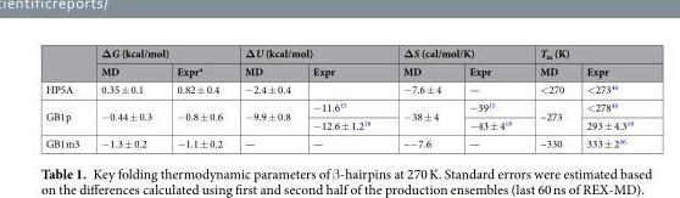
<table><thead><tr><td rowspan="2"></td><td colspan="2">ΔG (kcal/mol)</td><td colspan="2">ΔU (kcal/mol)</td><td colspan="2">ΔS (cal/mol/K)</td><td colspan="2">T<sub>m</sub> (K)</td></tr><tr><td>MD</td><td>Expr<sup>a</sup></td><td>MD</td><td>Expr</td><td>MD</td><td>Expr</td><td>MD</td><td>Expr</td></tr></thead><tbody><tr><td>HP5A</td><td>0.35 ± 0.1</td><td>0.82 ± 0.4</td><td>−2.4 ± 0.4</td><td></td><td>−7.6 ± 4</td><td>—</td><td>&lt;270</td><td>&lt;273<sup>46</sup></td></tr><tr><td rowspan="2">GB1p</td><td rowspan="2">−0.44 ± 0.3</td><td rowspan="2">−0.8 ± 0.6</td><td rowspan="2">−9.9 ± 0.8</td><td>−11.6<sup>15</sup></td><td rowspan="2">−38 ± 4</td><td>−39<sup>15</sup></td><td rowspan="2">~273</td><td>&lt;278<sup>46</sup></td></tr><tr><td>−12.6 ± 1.2<sup>18</sup></td><td>−43 ± 4<sup>18</sup></td><td>293 ± 4.3<sup>18</sup></td></tr><tr><td>GB1m3</td><td>−1.3 ± 0.2</td><td>−1.1 ± 0.2</td><td>—</td><td>—</td><td>~−7.6</td><td>—</td><td>~330</td><td>333 ± 2<sup>46</sup></td></tr></tbody></table>